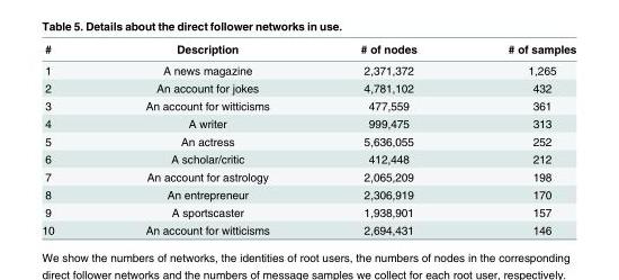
<table><thead><tr><td>#</td><td>Description</td><td># of nodes</td><td># of samples</td></tr></thead><tbody><tr><td>1</td><td>A news magazine</td><td>2,371,372</td><td>1,265</td></tr><tr><td>2</td><td>An account for jokes</td><td>4,781,102</td><td>432</td></tr><tr><td>3</td><td>An account for witticisms</td><td>477,559</td><td>361</td></tr><tr><td>4</td><td>A writer</td><td>999,475</td><td>313</td></tr><tr><td>5</td><td>An actress</td><td>5,636,055</td><td>252</td></tr><tr><td>6</td><td>A scholar/critic</td><td>412,448</td><td>212</td></tr><tr><td>7</td><td>An account for astrology</td><td>2,065,209</td><td>198</td></tr><tr><td>8</td><td>An entrepreneur</td><td>2,306,919</td><td>170</td></tr><tr><td>9</td><td>A sportscaster</td><td>1,938,901</td><td>157</td></tr><tr><td>10</td><td>An account for witticisms</td><td>2,694,431</td><td>146</td></tr></tbody></table>